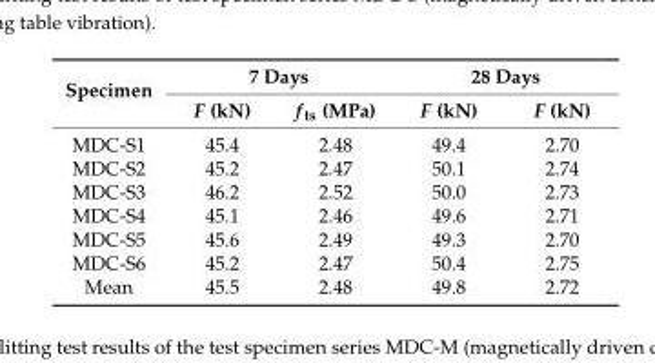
<table><thead><tr><td rowspan="2">Specimen</td><td colspan="2">7 Days</td><td colspan="2">28 Days</td></tr><tr><td>F (kN)</td><td>f<sub>ts</sub> (MPa)</td><td>F (kN)</td><td>F (kN)</td></tr></thead><tbody><tr><td>MDC-S1</td><td>45.4</td><td>2.48</td><td>49.4</td><td>2.70</td></tr><tr><td>MDC-S2</td><td>45.2</td><td>2.47</td><td>50.1</td><td>2.74</td></tr><tr><td>MDC-S3</td><td>46.2</td><td>2.52</td><td>50.0</td><td>2.73</td></tr><tr><td>MDC-S4</td><td>45.1</td><td>2.46</td><td>49.6</td><td>2.71</td></tr><tr><td>MDC-S5</td><td>45.6</td><td>2.49</td><td>49.3</td><td>2.70</td></tr><tr><td>MDC-S6</td><td>45.2</td><td>2.47</td><td>50.4</td><td>2.75</td></tr><tr><td>Mean</td><td>45.5</td><td>2.48</td><td>49.8</td><td>2.72</td></tr></tbody></table>